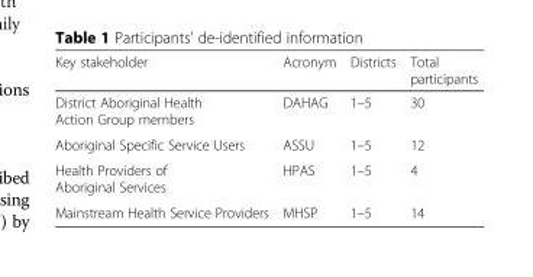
<table><thead><tr><td>Key stakeholder</td><td>Acronym</td><td>Districts</td><td>Total participants</td></tr></thead><tbody><tr><td>District Aboriginal Health Action Group members</td><td>DAHAG</td><td>1–5</td><td>30</td></tr><tr><td>Aboriginal Specific Service Users</td><td>ASSU</td><td>1–5</td><td>12</td></tr><tr><td>Health Providers of Aboriginal Services</td><td>HPAS</td><td>1–5</td><td>4</td></tr><tr><td>Mainstream Health Service Providers</td><td>MHSP</td><td>1–5</td><td>14</td></tr></tbody></table>